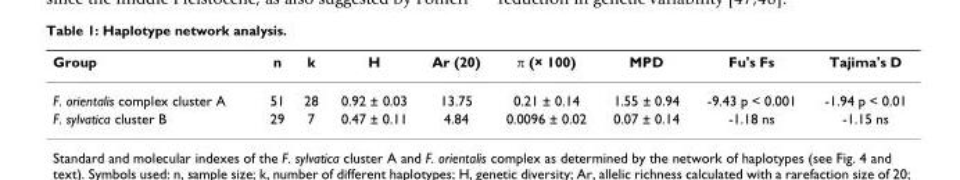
<table><thead><tr><td>Group</td><td>n</td><td>k</td><td>H</td><td>Ar (20)</td><td>π (× 100)</td><td>MPD</td><td>Fu&#x27;s Fs</td><td>Tajima&#x27;s D</td></tr></thead><tbody><tr><td>F. orientalis complex cluster A</td><td>51</td><td>28</td><td>0.92 ± 0.03</td><td>13.75</td><td>0.21 ± 0.14</td><td>1.55 ± 0.94</td><td>-9.43 p &lt; 0.001</td><td>-1.94 p &lt; 0.01</td></tr><tr><td>F. sylvatica cluster B</td><td>29</td><td>7</td><td>0.47 ± 0.11</td><td>4.84</td><td>0.0096 ± 0.02</td><td>0.07 ± 0.14</td><td>-1.18 ns</td><td>-1.15 ns</td></tr></tbody></table>